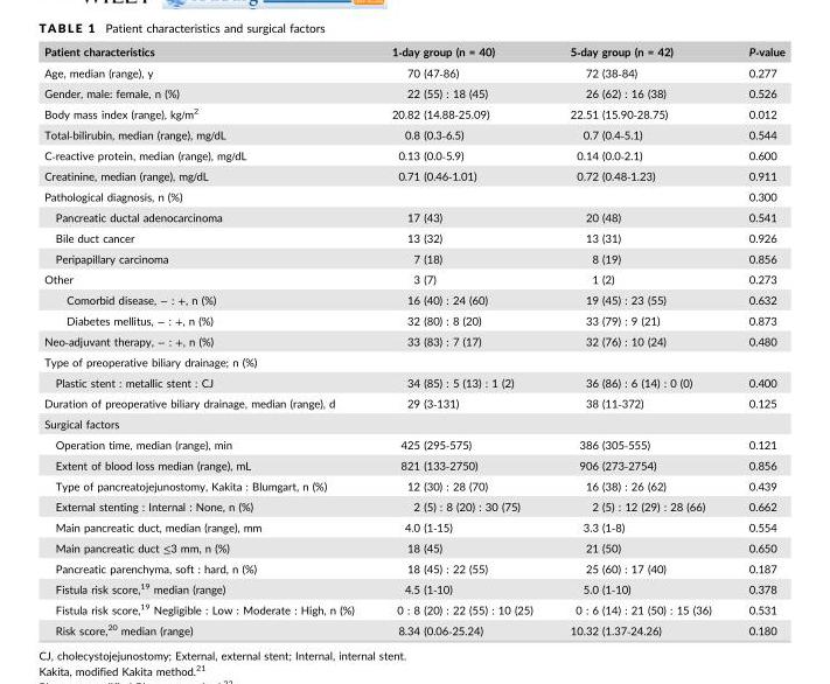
<table><thead><tr><td>Patient characteristics</td><td>1‐day group (n = 40)</td><td>5‐day group (n = 42)</td><td>P‐value</td></tr></thead><tbody><tr><td>Age, median (range), y</td><td>70 (47‐86)</td><td>72 (38‐84)</td><td>0.277</td></tr><tr><td>Gender, male: female, n (%)</td><td>22 (55) : 18 (45)</td><td>26 (62) : 16 (38)</td><td>0.526</td></tr><tr><td>Body mass index (range), kg/m<sup>2</sup></td><td>20.82 (14.88‐25.09)</td><td>22.51 (15.90‐28.75)</td><td>0.012</td></tr><tr><td>Total‐bilirubin, median (range), mg/dL</td><td>0.8 (0.3‐6.5)</td><td>0.7 (0.4‐5.1)</td><td>0.544</td></tr><tr><td>C‐reactive protein, median (range), mg/dL</td><td>0.13 (0.0‐5.9)</td><td>0.14 (0.0‐2.1)</td><td>0.600</td></tr><tr><td>Creatinine, median (range), mg/dL</td><td>0.71 (0.46‐1.01)</td><td>0.72 (0.48‐1.23)</td><td>0.911</td></tr><tr><td>Pathological diagnosis, n (%)</td><td></td><td></td><td>0.300</td></tr><tr><td>Pancreatic ductal adenocarcinoma</td><td>17 (43)</td><td>20 (48)</td><td>0.541</td></tr><tr><td>Bile duct cancer</td><td>13 (32)</td><td>13 (31)</td><td>0.926</td></tr><tr><td>Peripapillary carcinoma</td><td>7 (18)</td><td>8 (19)</td><td>0.856</td></tr><tr><td>Other</td><td>3 (7)</td><td>1 (2)</td><td>0.273</td></tr><tr><td>Comorbid disease, − : +, n (%)</td><td>16 (40) : 24 (60)</td><td>19 (45) : 23 (55)</td><td>0.632</td></tr><tr><td>Diabetes mellitus, − : +, n (%)</td><td>32 (80) : 8 (20)</td><td>33 (79) : 9 (21)</td><td>0.873</td></tr><tr><td>Neo‐adjuvant therapy, − : +, n (%)</td><td>33 (83) : 7 (17)</td><td>32 (76) : 10 (24)</td><td>0.480</td></tr><tr><td colspan="4">Type of preoperative biliary drainage; n (%)</td></tr><tr><td>Plastic stent : metallic stent : CJ</td><td>34 (85) : 5 (13) : 1 (2)</td><td>36 (86) : 6 (14) : 0 (0)</td><td>0.400</td></tr><tr><td>Duration of preoperative biliary drainage, median (range), d</td><td>29 (3‐131)</td><td>38 (11‐372)</td><td>0.125</td></tr><tr><td colspan="4">Surgical factors</td></tr><tr><td>Operation time, median (range), min</td><td>425 (295‐575)</td><td>386 (305‐555)</td><td>0.121</td></tr><tr><td>Extent of blood loss median (range), mL</td><td>821 (133‐2750)</td><td>906 (273‐2754)</td><td>0.856</td></tr><tr><td>Type of pancreatojejunostomy, Kakita : Blumgart, n (%)</td><td>12 (30) : 28 (70)</td><td>16 (38) : 26 (62)</td><td>0.439</td></tr><tr><td>External stenting : Internal : None, n (%)</td><td>2 (5) : 8 (20) : 30 (75)</td><td>2 (5) : 12 (29) : 28 (66)</td><td>0.662</td></tr><tr><td>Main pancreatic duct, median (range), mm</td><td>4.0 (1‐15)</td><td>3.3 (1‐8)</td><td>0.554</td></tr><tr><td>Main pancreatic duct ≤3 mm, n (%)</td><td>18 (45)</td><td>21 (50)</td><td>0.650</td></tr><tr><td>Pancreatic parenchyma, soft : hard, n (%)</td><td>18 (45) : 22 (55)</td><td>25 (60) : 17 (40)</td><td>0.187</td></tr><tr><td>Fistula risk score,<sup>19</sup> median (range)</td><td>4.5 (1‐10)</td><td>5.0 (1‐10)</td><td>0.378</td></tr><tr><td>Fistula risk score,<sup>19</sup> Negligible : Low : Moderate : High, n (%)</td><td>0 : 8 (20) : 22 (55) : 10 (25)</td><td>0 : 6 (14) : 21 (50) : 15 (36)</td><td>0.531</td></tr><tr><td>Risk score,<sup>20</sup> median (range)</td><td>8.34 (0.06‐25.24)</td><td>10.32 (1.37‐24.26)</td><td>0.180</td></tr></tbody></table>